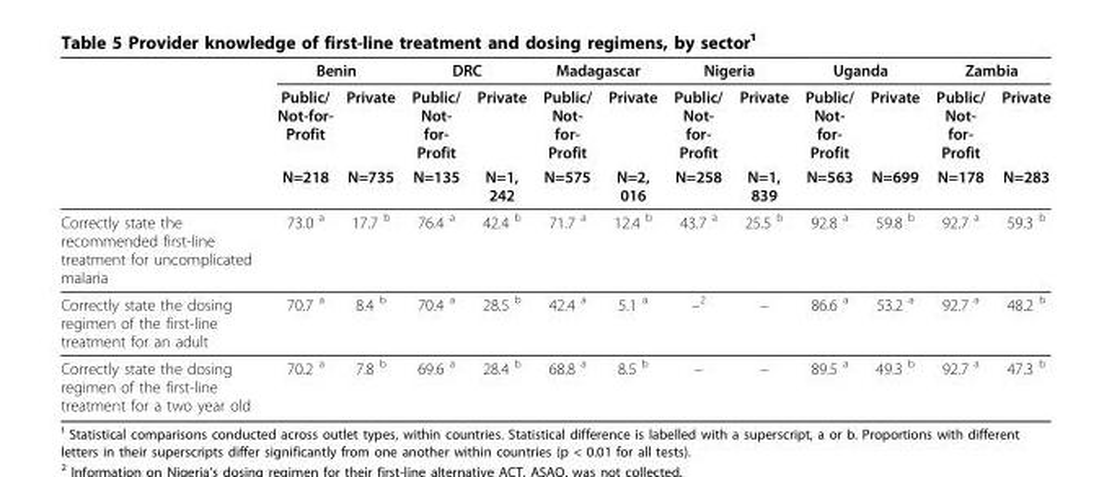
<table><thead><tr><td rowspan="3"></td><td colspan="2">Benin</td><td colspan="2">DRC</td><td colspan="2">Madagascar</td><td colspan="2">Nigeria</td><td colspan="2">Uganda</td><td colspan="2">Zambia</td></tr><tr><td rowspan="2">Public/ Not-for- Profit N=218</td><td rowspan="2">Private N=735</td><td rowspan="2">Public/ Not- for- Profit N=135</td><td rowspan="2">Private N=1, 242</td><td rowspan="2">Public/ Not- for- Profit N=575</td><td rowspan="2">Private N=2, 016</td><td rowspan="2">Public/ Not- for- Profit N=258</td><td rowspan="2">Private N=1, 839</td><td rowspan="2">Public/ Not- for- Profit N=563</td><td rowspan="2">Private N=699</td><td rowspan="2">Public/ Not- for- Profit N=178</td><td rowspan="2">Private N=283</td></tr><tr></tr></thead><tbody><tr><td>Correctly state the recommended first-line treatment for uncomplicated malaria</td><td>73.0 <sup>a</sup></td><td>17.7 <sup>b</sup></td><td>76.4 <sup>a</sup></td><td>42.4 <sup>b</sup></td><td>71.7 <sup>a</sup></td><td>12.4 <sup>b</sup></td><td>43.7 <sup>a</sup></td><td>25.5 <sup>b</sup></td><td>92.8 <sup>a</sup></td><td>59.8 <sup>b</sup></td><td>92.7 <sup>a</sup></td><td>59.3 <sup>b</sup></td></tr><tr><td>Correctly state the dosing regimen of the first-line treatment for an adult</td><td>70.7 <sup>a</sup></td><td>8.4 <sup>b</sup></td><td>70.4 <sup>a</sup></td><td>28.5 <sup>b</sup></td><td>42.4 <sup>a</sup></td><td>5.1 <sup>a</sup></td><td>–2</td><td>–</td><td>86.6 <sup>a</sup></td><td>53.2 <sup>a</sup></td><td>92.7 <sup>a</sup></td><td>48.2 <sup>b</sup></td></tr><tr><td>Correctly state the dosing regimen of the first-line treatment for a two year old</td><td>70.2 <sup>a</sup></td><td>7.8 <sup>b</sup></td><td>69.6 <sup>a</sup></td><td>28.4 <sup>b</sup></td><td>68.8 <sup>a</sup></td><td>8.5 <sup>b</sup></td><td>–</td><td>–</td><td>89.5 <sup>a</sup></td><td>49.3 <sup>b</sup></td><td>92.7 <sup>a</sup></td><td>47.3 <sup>b</sup></td></tr></tbody></table>